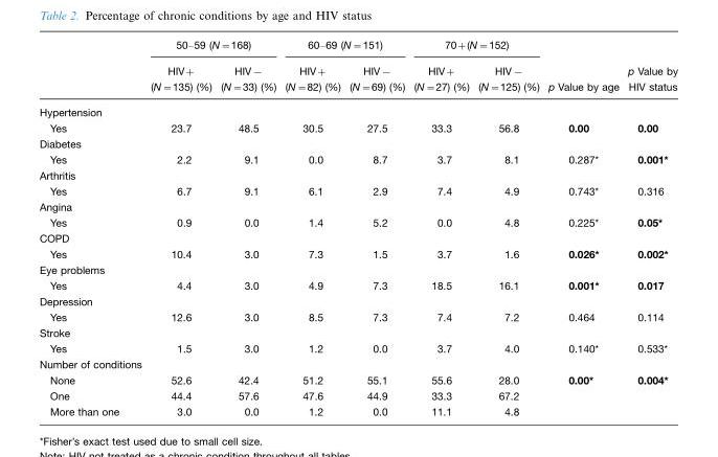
<table><thead><tr><td rowspan="2"></td><td colspan="2">50–59 (N=168)</td><td colspan="2">60–69 (N=151)</td><td colspan="2">70+(N=152)</td><td rowspan="2">p Value by age</td><td rowspan="2">p Value by HIV status</td></tr><tr><td>HIV+ (N=135) (%)</td><td>HIV− (N=33) (%)</td><td>HIV+ (N=82) (%)</td><td>HIV− (N=69) (%)</td><td>HIV+ (N=27) (%)</td><td>HIV− (N=125) (%)</td></tr></thead><tbody><tr><td colspan="9">Hypertension</td></tr><tr><td>Yes</td><td>23.7</td><td>48.5</td><td>30.5</td><td>27.5</td><td>33.3</td><td>56.8</td><td>0.00</td><td>0.00</td></tr><tr><td colspan="9">Diabetes</td></tr><tr><td>Yes</td><td>2.2</td><td>9.1</td><td>0.0</td><td>8.7</td><td>3.7</td><td>8.1</td><td>0.287*</td><td>0.001*</td></tr><tr><td colspan="9">Arthritis</td></tr><tr><td>Yes</td><td>6.7</td><td>9.1</td><td>6.1</td><td>2.9</td><td>7.4</td><td>4.9</td><td>0.743*</td><td>0.316</td></tr><tr><td colspan="9">Angina</td></tr><tr><td>Yes</td><td>0.9</td><td>0.0</td><td>1.4</td><td>5.2</td><td>0.0</td><td>4.8</td><td>0.225*</td><td>0.05*</td></tr><tr><td colspan="9">COPD</td></tr><tr><td>Yes</td><td>10.4</td><td>3.0</td><td>7.3</td><td>1.5</td><td>3.7</td><td>1.6</td><td>0.026*</td><td>0.002*</td></tr><tr><td colspan="9">Eye problems</td></tr><tr><td>Yes</td><td>4.4</td><td>3.0</td><td>4.9</td><td>7.3</td><td>18.5</td><td>16.1</td><td>0.001*</td><td>0.017</td></tr><tr><td colspan="9">Depression</td></tr><tr><td>Yes</td><td>12.6</td><td>3.0</td><td>8.5</td><td>7.3</td><td>7.4</td><td>7.2</td><td>0.464</td><td>0.114</td></tr><tr><td colspan="9">Stroke</td></tr><tr><td>Yes</td><td>1.5</td><td>3.0</td><td>1.2</td><td>0.0</td><td>3.7</td><td>4.0</td><td>0.140*</td><td>0.533*</td></tr><tr><td colspan="9">Number of conditions</td></tr><tr><td>None</td><td>52.6</td><td>42.4</td><td>51.2</td><td>55.1</td><td>55.6</td><td>28.0</td><td>0.00*</td><td>0.004*</td></tr><tr><td>One</td><td>44.4</td><td>57.6</td><td>47.6</td><td>44.9</td><td>33.3</td><td>67.2</td><td></td><td></td></tr><tr><td>More than one</td><td>3.0</td><td>0.0</td><td>1.2</td><td>0.0</td><td>11.1</td><td>4.8</td><td></td><td></td></tr></tbody></table>